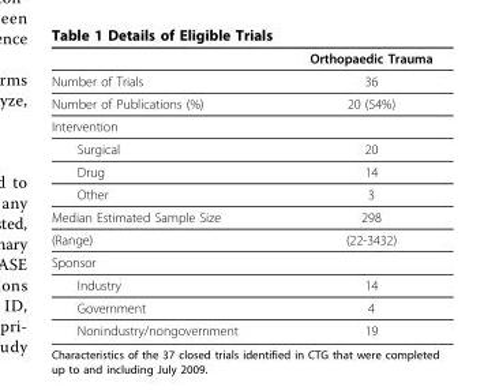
<table><thead><tr><td></td><td>Orthopaedic Trauma</td></tr></thead><tbody><tr><td>Number of Trials</td><td>36</td></tr><tr><td>Number of Publications (%)</td><td>20 (54%)</td></tr><tr><td colspan="2">Intervention</td></tr><tr><td>Surgical</td><td>20</td></tr><tr><td>Drug</td><td>14</td></tr><tr><td>Other</td><td>3</td></tr><tr><td>Median Estimated Sample Size</td><td>298</td></tr><tr><td>(Range)</td><td>(22-3432)</td></tr><tr><td colspan="2">Sponsor</td></tr><tr><td>Industry</td><td>14</td></tr><tr><td>Government</td><td>4</td></tr><tr><td>Nonindustry/nongovernment</td><td>19</td></tr></tbody></table>